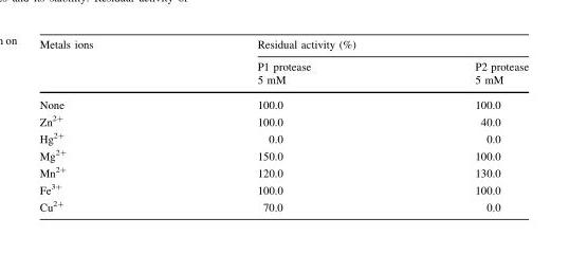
<table><thead><tr><td rowspan="3">Metals ions</td><td colspan="2">Residual activity (%)</td></tr><tr><td rowspan="2">P1 protease 5 mM</td><td rowspan="2">P2 protease 5 mM</td></tr><tr></tr></thead><tbody><tr><td>None</td><td>100.0</td><td>100.0</td></tr><tr><td>Zn<sup>2+</sup></td><td>100.0</td><td>40.0</td></tr><tr><td>Hg<sup>2+</sup></td><td>0.0</td><td>0.0</td></tr><tr><td>Mg<sup>2+</sup></td><td>150.0</td><td>100.0</td></tr><tr><td>Mn<sup>2+</sup></td><td>120.0</td><td>130.0</td></tr><tr><td>Fe<sup>3+</sup></td><td>100.0</td><td>100.0</td></tr><tr><td>Cu<sup>2+</sup></td><td>70.0</td><td>0.0</td></tr></tbody></table>